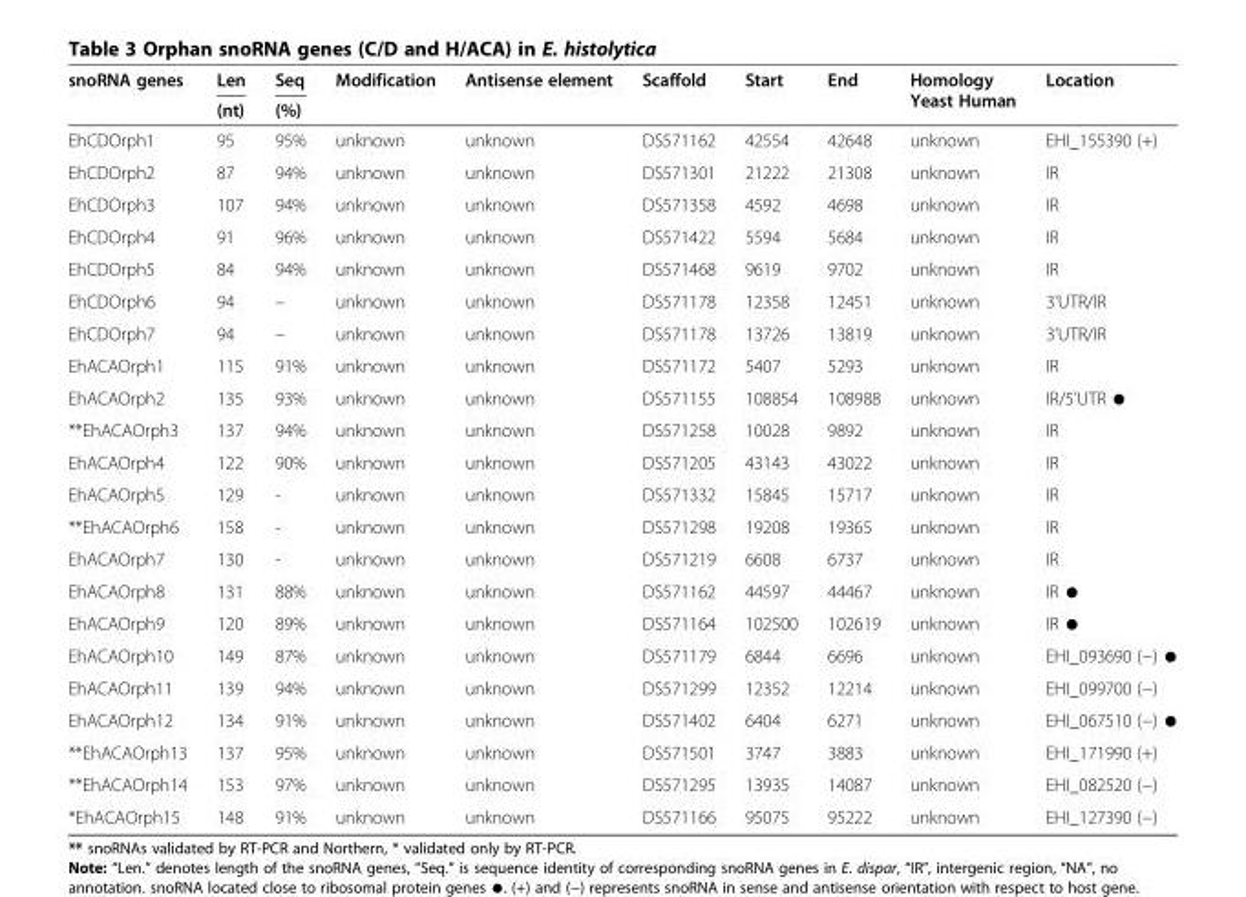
<table><thead><tr><td rowspan="2">snoRNA genes</td><td rowspan="2">Len (nt)</td><td rowspan="2">Seq (%)</td><td rowspan="2">Modification</td><td rowspan="2">Antisense element</td><td rowspan="2">Scaffold</td><td rowspan="2">Start</td><td rowspan="2">End</td><td rowspan="2">Homology Yeast Human</td><td rowspan="2">Location</td></tr><tr></tr></thead><tbody><tr><td>EhCDOrph1</td><td>95</td><td>95%</td><td>unknown</td><td>unknown</td><td>DS571162</td><td>42554</td><td>42648</td><td>unknown</td><td>EHI_155390 (+)</td></tr><tr><td>EhCDOrph2</td><td>87</td><td>94%</td><td>unknown</td><td>unknown</td><td>DS571301</td><td>21222</td><td>21308</td><td>unknown</td><td>IR</td></tr><tr><td>EhCDOrph3</td><td>107</td><td>94%</td><td>unknown</td><td>unknown</td><td>DS571358</td><td>4592</td><td>4698</td><td>unknown</td><td>IR</td></tr><tr><td>EhCDOrph4</td><td>91</td><td>96%</td><td>unknown</td><td>unknown</td><td>DS571422</td><td>5594</td><td>5684</td><td>unknown</td><td>IR</td></tr><tr><td>EhCDOrph5</td><td>84</td><td>94%</td><td>unknown</td><td>unknown</td><td>DS571468</td><td>9619</td><td>9702</td><td>unknown</td><td>IR</td></tr><tr><td>EhCDOrph6</td><td>94</td><td>–</td><td>unknown</td><td>unknown</td><td>DS571178</td><td>12358</td><td>12451</td><td>unknown</td><td>3&#x27;UTR/IR</td></tr><tr><td>EhCDOrph7</td><td>94</td><td>–</td><td>unknown</td><td>unknown</td><td>DS571178</td><td>13726</td><td>13819</td><td>unknown</td><td>3&#x27;UTR/IR</td></tr><tr><td>EhACAOrph1</td><td>115</td><td>91%</td><td>unknown</td><td>unknown</td><td>DS571172</td><td>5407</td><td>5293</td><td>unknown</td><td>IR</td></tr><tr><td>EhACAOrph2</td><td>135</td><td>93%</td><td>unknown</td><td>unknown</td><td>DS571155</td><td>108854</td><td>108988</td><td>unknown</td><td>IR/5’UTR ●</td></tr><tr><td>**EhACAOrph3</td><td>137</td><td>94%</td><td>unknown</td><td>unknown</td><td>DS571258</td><td>10028</td><td>9892</td><td>unknown</td><td>IR</td></tr><tr><td>EhACAOrph4</td><td>122</td><td>90%</td><td>unknown</td><td>unknown</td><td>DS571205</td><td>43143</td><td>43022</td><td>unknown</td><td>IR</td></tr><tr><td>EhACAOrph5</td><td>129</td><td>-</td><td>unknown</td><td>unknown</td><td>DS571332</td><td>15845</td><td>15717</td><td>unknown</td><td>IR</td></tr><tr><td>**EhACAOrph6</td><td>158</td><td>-</td><td>unknown</td><td>unknown</td><td>DS571298</td><td>19208</td><td>19365</td><td>unknown</td><td>IR</td></tr><tr><td>EhACAOrph7</td><td>130</td><td>-</td><td>unknown</td><td>unknown</td><td>DS571219</td><td>6608</td><td>6737</td><td>unknown</td><td>IR</td></tr><tr><td>EhACAOrph8</td><td>131</td><td>88%</td><td>unknown</td><td>unknown</td><td>DS571162</td><td>44597</td><td>44467</td><td>unknown</td><td>IR ●</td></tr><tr><td>EhACAOrph9</td><td>120</td><td>89%</td><td>unknown</td><td>unknown</td><td>DS571164</td><td>102500</td><td>102619</td><td>unknown</td><td>IR ●</td></tr><tr><td>EhACAOrph10</td><td>149</td><td>87%</td><td>unknown</td><td>unknown</td><td>DS571179</td><td>6844</td><td>6696</td><td>unknown</td><td>EHI_093690 (−) ●</td></tr><tr><td>EhACAOrph11</td><td>139</td><td>94%</td><td>unknown</td><td>unknown</td><td>DS571299</td><td>12352</td><td>12214</td><td>unknown</td><td>EHI_099700 (−)</td></tr><tr><td>EhACAOrph12</td><td>134</td><td>91%</td><td>unknown</td><td>unknown</td><td>DS571402</td><td>6404</td><td>6271</td><td>unknown</td><td>EHI_067510 (−) ●</td></tr><tr><td>**EhACAOrph13</td><td>137</td><td>95%</td><td>unknown</td><td>unknown</td><td>DS571501</td><td>3747</td><td>3883</td><td>unknown</td><td>EHI_171990 (+)</td></tr><tr><td>**EhACAOrph14</td><td>153</td><td>97%</td><td>unknown</td><td>unknown</td><td>DS571295</td><td>13935</td><td>14087</td><td>unknown</td><td>EHI_082520 (−)</td></tr><tr><td>*EhACAOrph15</td><td>148</td><td>91%</td><td>unknown</td><td>unknown</td><td>DS571166</td><td>95075</td><td>95222</td><td>unknown</td><td>EHI_127390 (−)</td></tr></tbody></table>